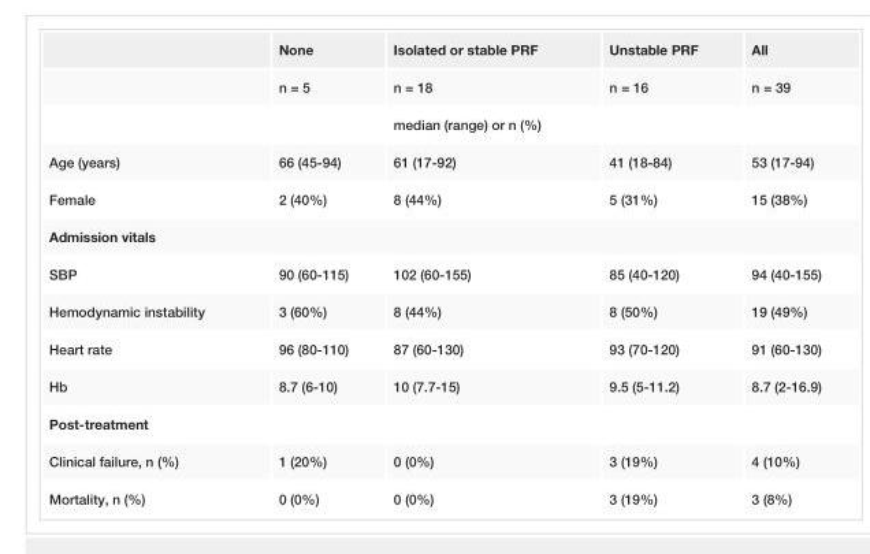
<table><thead><tr><td></td><td>None</td><td>Isolated or stable PRF</td><td>Unstable PRF</td><td>All</td></tr></thead><tbody><tr><td></td><td>n = 5</td><td>n = 18</td><td>n = 16</td><td>n = 39</td></tr><tr><td></td><td></td><td colspan="2">median (range) or n (%)</td><td></td></tr><tr><td>Age (years)</td><td>66 (45-94)</td><td>61 (17-92)</td><td>41 (18-84)</td><td>53 (17-94)</td></tr><tr><td>Female</td><td>2 (40%)</td><td>8 (44%)</td><td>5 (31%)</td><td>15 (38%)</td></tr><tr><td colspan="5">Admission vitals</td></tr><tr><td>SBP</td><td>90 (60-115)</td><td>102 (60-155)</td><td>85 (40-120)</td><td>94 (40-155)</td></tr><tr><td>Hemodynamic instability</td><td>3 (60%)</td><td>8 (44%)</td><td>8 (50%)</td><td>19 (49%)</td></tr><tr><td>Heart rate</td><td>96 (80-110)</td><td>87 (60-130)</td><td>93 (70-120)</td><td>91 (60-130)</td></tr><tr><td>Hb</td><td>8.7 (6-10)</td><td>10 (7.7-15)</td><td>9.5 (5-11.2)</td><td>8.7 (2-16.9)</td></tr><tr><td colspan="5">Post-treatment</td></tr><tr><td>Clinical failure, n (%)</td><td>1 (20%)</td><td>0 (0%)</td><td>3 (19%)</td><td>4 (10%)</td></tr><tr><td>Mortality, n (%)</td><td>0 (0%)</td><td>0 (0%)</td><td>3 (19%)</td><td>3 (8%)</td></tr></tbody></table>